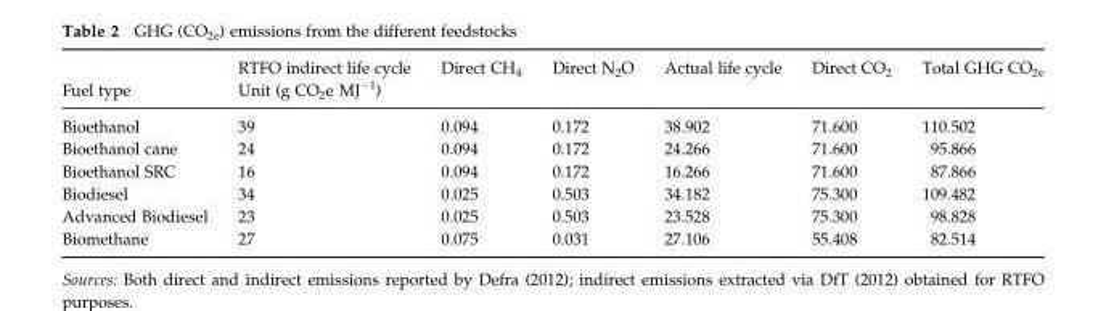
<table><thead><tr><td rowspan="2">Fuel type</td><td>RTFO indirect life cycle</td><td>Direct CH<sub>4</sub></td><td>Direct N<sub>2</sub>O</td><td>Actual life cycle</td><td>Direct CO<sub>2</sub></td><td>Total GHG CO<sub>2e</sub></td></tr><tr><td colspan="6">Unit (g CO<sub>2</sub>e MJ<sup>−1</sup>)</td></tr></thead><tbody><tr><td>Bioethanol</td><td>39</td><td>0.094</td><td>0.172</td><td>38.902</td><td>71.600</td><td>110.502</td></tr><tr><td>Bioethanol cane</td><td>24</td><td>0.094</td><td>0.172</td><td>24.266</td><td>71.600</td><td>95.866</td></tr><tr><td>Bioethanol SRC</td><td>16</td><td>0.094</td><td>0.172</td><td>16.266</td><td>71.600</td><td>87.866</td></tr><tr><td>Biodiesel</td><td>34</td><td>0.025</td><td>0.503</td><td>34.182</td><td>75.300</td><td>109.482</td></tr><tr><td>Advanced Biodiesel</td><td>23</td><td>0.025</td><td>0.503</td><td>23.528</td><td>75.300</td><td>98.828</td></tr><tr><td>Biomethane</td><td>27</td><td>0.075</td><td>0.031</td><td>27.106</td><td>55.408</td><td>82.514</td></tr></tbody></table>